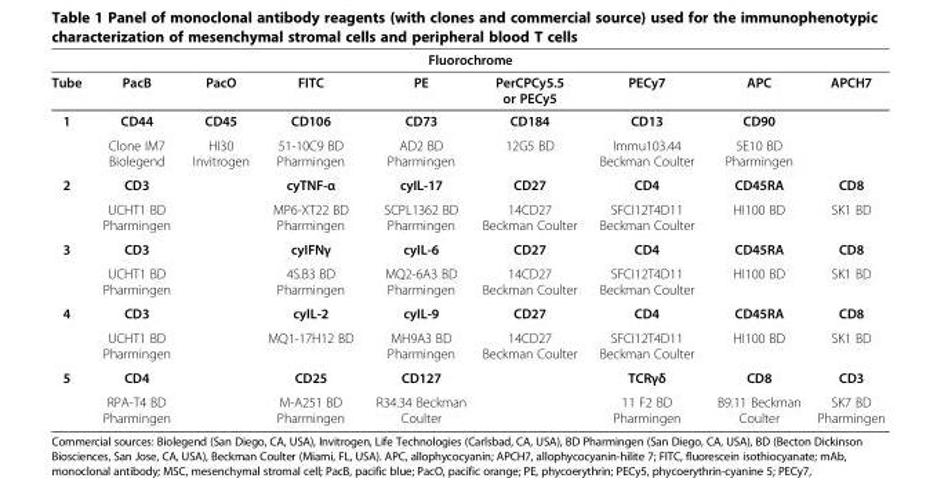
<table><thead><tr><td colspan="9">Fluorochrome</td></tr><tr><td>Tube</td><td>PacB</td><td>PacO</td><td>FITC</td><td>PE</td><td>PerCPCy5.5 or PECy5</td><td>PECy7</td><td>APC</td><td>APCH7</td></tr></thead><tbody><tr><td rowspan="2">1</td><td>CD44</td><td>CD45</td><td>CD106</td><td>CD73</td><td>CD184</td><td>CD13</td><td>CD90</td><td></td></tr><tr><td>Clone IM7 Biolegend</td><td>HI30 Invitrogen</td><td>51-10C9 BD Pharmingen</td><td>AD2 BD Pharmingen</td><td>12G5 BD</td><td>Immu103.44 Beckman Coulter</td><td>5E10 BD Pharmingen</td><td></td></tr><tr><td rowspan="2">2</td><td>CD3</td><td></td><td>cyTNF-α</td><td>cyIL-17</td><td>CD27</td><td>CD4</td><td>CD45RA</td><td>CD8</td></tr><tr><td>UCHT1 BD Pharmingen</td><td></td><td>MP6-XT22 BD Pharmingen</td><td>SCPL1362 BD Pharmingen</td><td>14CD27 Beckman Coulter</td><td>SFCI12T4D11 Beckman Coulter</td><td>HI100 BD</td><td>SK1 BD</td></tr><tr><td rowspan="2">3</td><td>CD3</td><td></td><td>cyIFNγ</td><td>cyIL-6</td><td>CD27</td><td>CD4</td><td>CD45RA</td><td>CD8</td></tr><tr><td>UCHT1 BD Pharmingen</td><td></td><td>4S.B3 BD Pharmingen</td><td>MQ2-6A3 BD Pharmingen</td><td>14CD27 Beckman Coulter</td><td>SFCI12T4D11 Beckman Coulter</td><td>HI100 BD</td><td>SK1 BD</td></tr><tr><td rowspan="2">4</td><td>CD3</td><td></td><td>cyIL-2</td><td>cyIL-9</td><td>CD27</td><td>CD4</td><td>CD45RA</td><td>CD8</td></tr><tr><td>UCHT1 BD Pharmingen</td><td></td><td>MQ1-17H12 BD</td><td>MH9A3 BD Pharmingen</td><td>14CD27 Beckman Coulter</td><td>SFCI12T4D11 Beckman Coulter</td><td>HI100 BD</td><td>SK1 BD</td></tr><tr><td rowspan="2">5</td><td>CD4</td><td></td><td>CD25</td><td>CD127</td><td></td><td>TCRγδ</td><td>CD8</td><td>CD3</td></tr><tr><td>RPA-T4 BD Pharmingen</td><td></td><td>M-A251 BD Pharmingen</td><td>R34.34 Beckman Coulter</td><td></td><td>11 F2 BD Pharmingen</td><td>B9.11 Beckman Coulter</td><td>SK7 BD Pharmingen</td></tr></tbody></table>